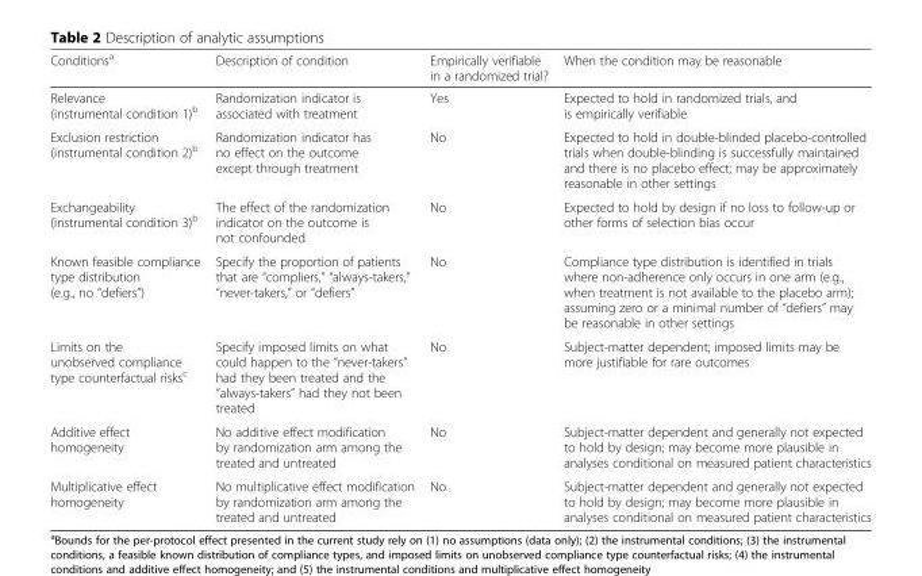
<table><thead><tr><td>Conditions<sup>a</sup></td><td>Description of condition</td><td>Empirically verifiable in a randomized trial?</td><td>When the condition may be reasonable</td></tr></thead><tbody><tr><td>Relevance (instrumental condition 1)<sup>b</sup></td><td>Randomization indicator is associated with treatment</td><td>Yes</td><td>Expected to hold in randomized trials, and is empirically verifiable</td></tr><tr><td>Exclusion restriction (instrumental condition 2)<sup>b</sup></td><td>Randomization indicator has no effect on the outcome except through treatment</td><td>No</td><td>Expected to hold in double-blinded placebo-controlled trials when double-blinding is successfully maintained and there is no placebo effect; may be approximately reasonable in other settings</td></tr><tr><td>Exchangeability (instrumental condition 3)<sup>b</sup></td><td>The effect of the randomization indicator on the outcome is not confounded</td><td>No</td><td>Expected to hold by design if no loss to follow-up or other forms of selection bias occur</td></tr><tr><td>Known feasible compliance type distribution (e.g., no “defiers”)</td><td>Specify the proportion of patients that are “compliers,” “always-takers,” “never-takers,” or “defiers”</td><td>No</td><td>Compliance type distribution is identified in trials where non-adherence only occurs in one arm (e.g., when treatment is not available to the placebo arm); assuming zero or a minimal number of “defiers” may be reasonable in other settings</td></tr><tr><td>Limits on the unobserved compliance type counterfactual risks<sup>c</sup></td><td>Specify imposed limits on what could happen to the “never-takers” had they been treated and the “always-takers” had they not been treated</td><td>No</td><td>Subject-matter dependent; imposed limits may be more justifiable for rare outcomes</td></tr><tr><td>Additive effect homogeneity</td><td>No additive effect modification by randomization arm among the treated and untreated</td><td>No</td><td>Subject-matter dependent and generally not expected to hold by design; may become more plausible in analyses conditional on measured patient characteristics</td></tr><tr><td>Multiplicative effect homogeneity</td><td>No multiplicative effect modification by randomization arm among the treated and untreated</td><td>No</td><td>Subject-matter dependent and generally not expected to hold by design; may become more plausible in analyses conditional on measured patient characteristics</td></tr></tbody></table>